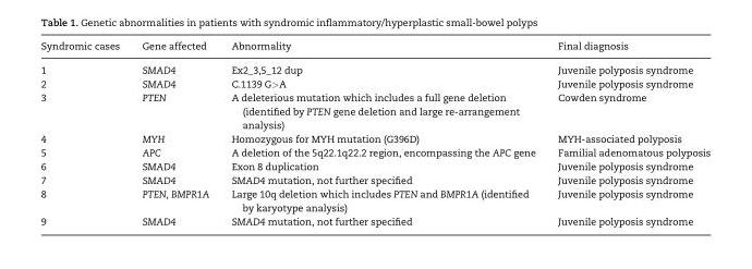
<table><thead><tr><td>Syndromic cases</td><td>Gene affected</td><td>Abnormality</td><td>Final diagnosis</td></tr></thead><tbody><tr><td>1</td><td>SMAD4</td><td>Ex2_3,5_12 dup</td><td>Juvenile polyposis syndrome</td></tr><tr><td>2</td><td>SMAD4</td><td>C.1139 G&gt;A</td><td>Juvenile polyposis syndrome</td></tr><tr><td>3</td><td>PTEN</td><td>A deleterious mutation which includes a full gene deletion (identified by PTEN gene deletion and large re-arrangement analysis)</td><td>Cowden syndrome</td></tr><tr><td>4</td><td>MYH</td><td>Homozygous for MYH mutation (G396D)</td><td>MYH-associated polyposis</td></tr><tr><td>5</td><td>APC</td><td>A deletion of the 5q22.1q22.2 region, encompassing the APC gene</td><td>Familial adenomatous polyposis</td></tr><tr><td>6</td><td>SMAD4</td><td>Exon 8 duplication</td><td>Juvenile polyposis syndrome</td></tr><tr><td>7</td><td>SMAD4</td><td>SMAD4 mutation, not further specified</td><td>Juvenile polyposis syndrome</td></tr><tr><td>8</td><td>PTEN, BMPR1A</td><td>Large 10q deletion which includes PTEN and BMPR1A (identified by karyotype analysis)</td><td>Juvenile polyposis syndrome</td></tr><tr><td>9</td><td>SMAD4</td><td>SMAD4 mutation, not further specified</td><td>Juvenile polyposis syndrome</td></tr></tbody></table>